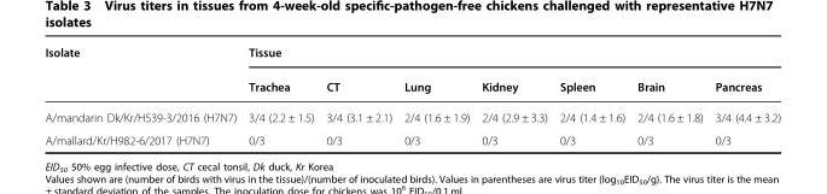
<table><thead><tr><td rowspan="2">Isolate</td><td colspan="7">Tissue</td></tr><tr><td>Trachea</td><td>CT</td><td>Lung</td><td>Kidney</td><td>Spleen</td><td>Brain</td><td>Pancreas</td></tr></thead><tbody><tr><td>A/mandarin Dk/Kr/H539-3/2016 (H7N7)</td><td>3/4 (2.2 ± 1.5)</td><td>3/4 (3.1 ± 2.1)</td><td>2/4 (1.6 ± 1.9)</td><td>2/4 (2.9 ± 3.3)</td><td>2/4 (1.4 ± 1.6)</td><td>2/4 (1.6 ± 1.8)</td><td>3/4 (4.4 ± 3.2)</td></tr><tr><td>A/mallard/Kr/H982-6/2017 (H7N7)</td><td>0/3</td><td>0/3</td><td>0/3</td><td>0/3</td><td>0/3</td><td>0/3</td><td>0/3</td></tr></tbody></table>